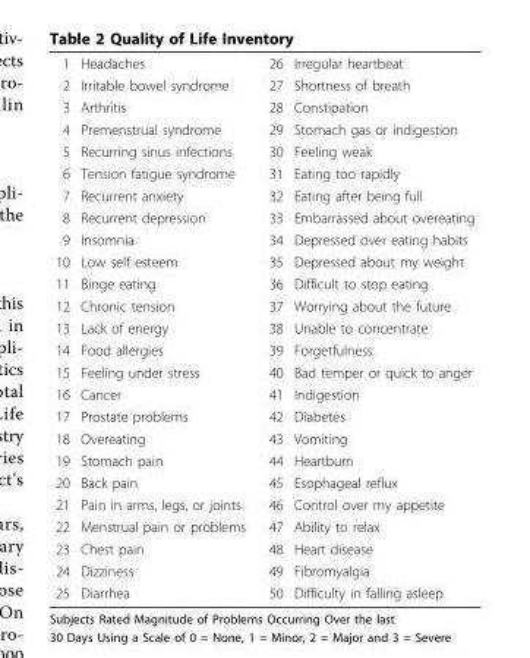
<table><tbody><tr><td>1</td><td>Headaches</td><td>26</td><td>Irregular heartbeat</td></tr><tr><td>2</td><td>Irritable bowel syndrome</td><td>27</td><td>Shortness of breath</td></tr><tr><td>3</td><td>Arthritis</td><td>28</td><td>Constipation</td></tr><tr><td>4</td><td>Premenstrual syndrome</td><td>29</td><td>Stomach gas or indigestion</td></tr><tr><td>5</td><td>Recurring sinus infections</td><td>30</td><td>Feeling weak</td></tr><tr><td>6</td><td>Tension fatigue syndrome</td><td>31</td><td>Eating too rapidly</td></tr><tr><td>7</td><td>Recurrent anxiety</td><td>32</td><td>Eating after being full</td></tr><tr><td>8</td><td>Recurrent depression</td><td>33</td><td>Embarrassed about overeating</td></tr><tr><td>9</td><td>Insomnia</td><td>34</td><td>Depressed over eating habits</td></tr><tr><td>10</td><td>Low self esteem</td><td>35</td><td>Depressed about my weight</td></tr><tr><td>11</td><td>Binge eating</td><td>36</td><td>Difficult to stop eating</td></tr><tr><td>12</td><td>Chronic tension</td><td>37</td><td>Worrying about the future</td></tr><tr><td>13</td><td>Lack of energy</td><td>38</td><td>Unable to concentrate</td></tr><tr><td>14</td><td>Food allergies</td><td>39</td><td>Forgetfulness</td></tr><tr><td>15</td><td>Feeling under stress</td><td>40</td><td>Bad temper or quick to anger</td></tr><tr><td>16</td><td>Cancer</td><td>41</td><td>Indigestion</td></tr><tr><td>17</td><td>Prostate problems</td><td>42</td><td>Diabetes</td></tr><tr><td>18</td><td>Overeating</td><td>43</td><td>Vomiting</td></tr><tr><td>19</td><td>Stomach pain</td><td>44</td><td>Heartburn</td></tr><tr><td>20</td><td>Back pain</td><td>45</td><td>Esophageal reflux</td></tr><tr><td>21</td><td>Pain in arms, legs, or joints</td><td>46</td><td>Control over my appetite</td></tr><tr><td>22</td><td>Menstrual pain or problems</td><td>47</td><td>Ability to relax</td></tr><tr><td>23</td><td>Chest pain</td><td>48</td><td>Heart disease</td></tr><tr><td>24</td><td>Dizziness</td><td>49</td><td>Fibromyalgia</td></tr><tr><td>25</td><td>Diarrhea</td><td>50</td><td>Difficulty in falling asleep</td></tr></tbody></table>